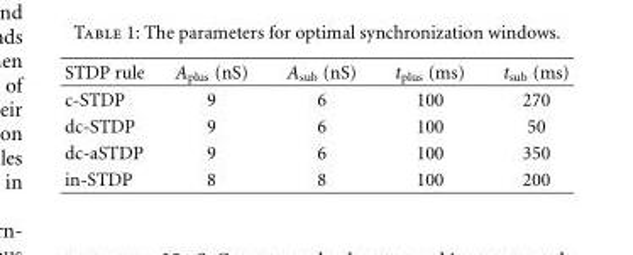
<table><thead><tr><td>STDP rule</td><td>A<sub>plus</sub> (nS)</td><td>A<sub>sub</sub> (nS)</td><td>t<sub>plus</sub> (ms)</td><td>t<sub>sub</sub> (ms)</td></tr></thead><tbody><tr><td>c-STDP</td><td>9</td><td>6</td><td>100</td><td>270</td></tr><tr><td>dc-STDP</td><td>9</td><td>6</td><td>100</td><td>50</td></tr><tr><td>dc-aSTDP</td><td>9</td><td>6</td><td>100</td><td>350</td></tr><tr><td>in-STDP</td><td>8</td><td>8</td><td>100</td><td>200</td></tr></tbody></table>